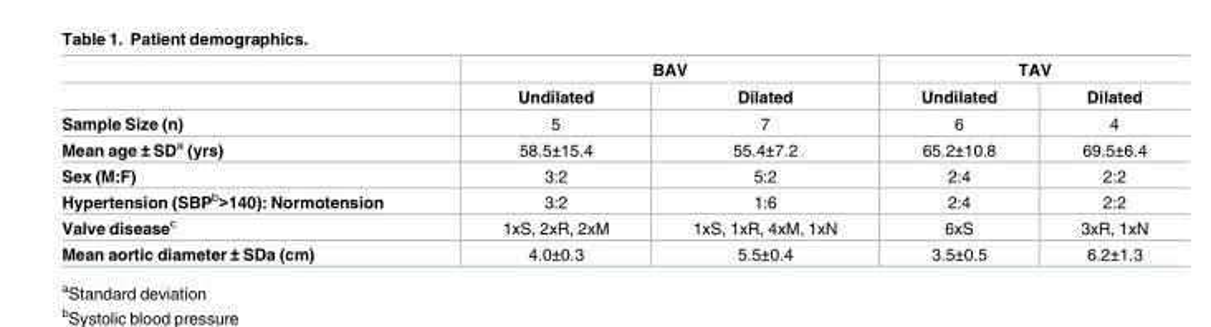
<table><thead><tr><td rowspan="2"></td><td colspan="2">BAV</td><td colspan="2">TAV</td></tr><tr><td>Undilated</td><td>Dilated</td><td>Undilated</td><td>Dilated</td></tr></thead><tbody><tr><td>Sample Size (n)</td><td>5</td><td>7</td><td>6</td><td>4</td></tr><tr><td>Mean age ± SD<sup>a</sup> (yrs)</td><td>58.5±15.4</td><td>55.4±7.2</td><td>65.2±10.8</td><td>69.5±6.4</td></tr><tr><td>Sex (M:F)</td><td>3:2</td><td>5:2</td><td>2:4</td><td>2:2</td></tr><tr><td>Hypertension (SBP<sup>b</sup>&gt;140): Normotension</td><td>3:2</td><td>1:6</td><td>2:4</td><td>2:2</td></tr><tr><td>Valve disease<sup>c</sup></td><td>1xS, 2xR, 2xM</td><td>1xS, 1xR, 4xM, 1xN</td><td>6xS</td><td>3xR, 1xN</td></tr><tr><td>Mean aortic diameter ± SDa (cm)</td><td>4.0±0.3</td><td>5.5±0.4</td><td>3.5±0.5</td><td>6.2±1.3</td></tr></tbody></table>